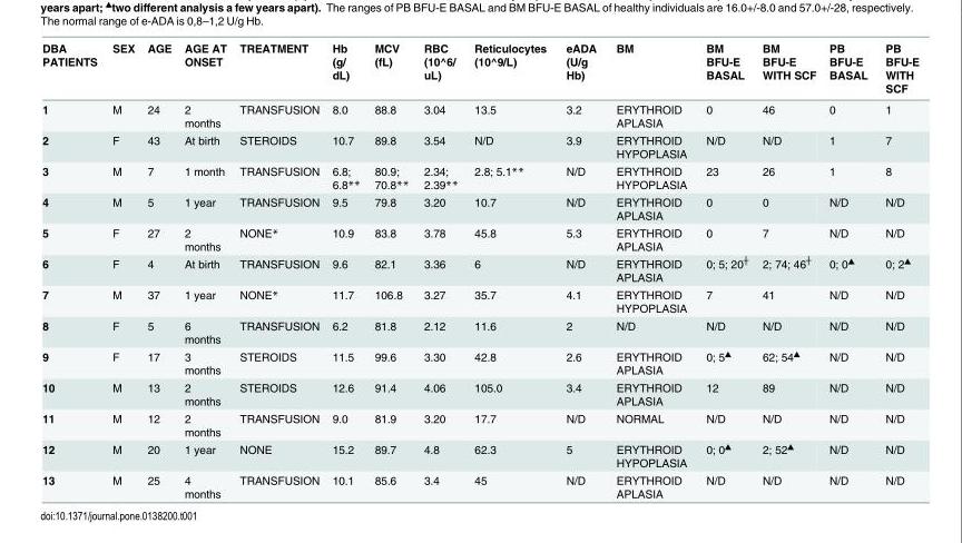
<table><thead><tr><td>DBA PATIENTS</td><td>SEX</td><td>AGE</td><td>AGE AT ONSET</td><td>TREATMENT</td><td>Hb (g/ dL)</td><td>MCV (fL)</td><td>RBC (10^6/ uL)</td><td>Reticulocytes (10^9/L)</td><td>eADA (U/g Hb)</td><td>BM</td><td>BM BFU-E BASAL</td><td>BM BFU-E WITH SCF</td><td>PB BFU-E BASAL</td><td>PB BFU-E WITH SCF</td></tr></thead><tbody><tr><td>1</td><td>M</td><td>24</td><td>2 months</td><td>TRANSFUSION</td><td>8.0</td><td>88.8</td><td>3.04</td><td>13.5</td><td>3.2</td><td>ERYTHROID APLASIA</td><td>0</td><td>46</td><td>0</td><td>1</td></tr><tr><td>2</td><td>F</td><td>43</td><td>At birth</td><td>STEROIDS</td><td>10.7</td><td>89.8</td><td>3.54</td><td>N/D</td><td>3.9</td><td>ERYTHROID HYPOPLASIA</td><td>N/D</td><td>N/D</td><td>1</td><td>7</td></tr><tr><td>3</td><td>M</td><td>7</td><td>1 month</td><td>TRANSFUSION</td><td>6.8; 6.8**</td><td>80.9; 70.8**</td><td>2.34; 2.39**</td><td>2.8; 5.1**</td><td>N/D</td><td>ERYTHROID HYPOPLASIA</td><td>23</td><td>26</td><td>1</td><td>8</td></tr><tr><td>4</td><td>M</td><td>5</td><td>1 year</td><td>TRANSFUSION</td><td>9.5</td><td>79.8</td><td>3.20</td><td>10.7</td><td>N/D</td><td>ERYTHROID APLASIA</td><td>0</td><td>0</td><td>N/D</td><td>N/D</td></tr><tr><td>5</td><td>F</td><td>27</td><td>2 months</td><td>NONE*</td><td>10.9</td><td>83.8</td><td>3.78</td><td>45.8</td><td>5.3</td><td>ERYTHROID APLASIA</td><td>0</td><td>7</td><td>N/D</td><td>N/D</td></tr><tr><td>6</td><td>F</td><td>4</td><td>At birth</td><td>TRANSFUSION</td><td>9.6</td><td>82.1</td><td>3.36</td><td>6</td><td>N/D</td><td>ERYTHROID APLASIA</td><td>0; 5; 20<sup>┼</sup></td><td>2; 74; 46<sup>┼</sup></td><td>0; 0<sup>▲</sup></td><td>0; 2<sup>▲</sup></td></tr><tr><td>7</td><td>M</td><td>37</td><td>1 year</td><td>NONE*</td><td>11.7</td><td>106.8</td><td>3.27</td><td>35.7</td><td>4.1</td><td>ERYTHROID HYPOPLASIA</td><td>7</td><td>41</td><td>N/D</td><td>N/D</td></tr><tr><td>8</td><td>F</td><td>5</td><td>6 months</td><td>TRANSFUSION</td><td>6.2</td><td>81.8</td><td>2.12</td><td>11.6</td><td>2</td><td>N/D</td><td>N/D</td><td>N/D</td><td>N/D</td><td>N/D</td></tr><tr><td>9</td><td>F</td><td>17</td><td>3 months</td><td>STEROIDS</td><td>11.5</td><td>99.6</td><td>3.30</td><td>42.8</td><td>2.6</td><td>ERYTHROID APLASIA</td><td>0; 5<sup>▲</sup></td><td>62; 54<sup>▲</sup></td><td>N/D</td><td>N/D</td></tr><tr><td>10</td><td>M</td><td>13</td><td>2 months</td><td>STEROIDS</td><td>12.6</td><td>91.4</td><td>4.06</td><td>105.0</td><td>3.4</td><td>ERYTHROID APLASIA</td><td>12</td><td>89</td><td>N/D</td><td>N/D</td></tr><tr><td>11</td><td>M</td><td>12</td><td>2 months</td><td>TRANSFUSION</td><td>9.0</td><td>81.9</td><td>3.20</td><td>17.7</td><td>N/D</td><td>NORMAL</td><td>N/D</td><td>N/D</td><td>N/D</td><td>N/D</td></tr><tr><td>12</td><td>M</td><td>20</td><td>1 year</td><td>NONE</td><td>15.2</td><td>89.7</td><td>4.8</td><td>62.3</td><td>5</td><td>ERYTHROID HYPOPLASIA</td><td>0; 0<sup>▲</sup></td><td>2; 52<sup>▲</sup></td><td>N/D</td><td>N/D</td></tr><tr><td>13</td><td>M</td><td>25</td><td>4 months</td><td>TRANSFUSION</td><td>10.1</td><td>85.6</td><td>3.4</td><td>45</td><td>N/D</td><td>ERYTHROID APLASIA</td><td>N/D</td><td>N/D</td><td>N/D</td><td>N/D</td></tr></tbody></table>